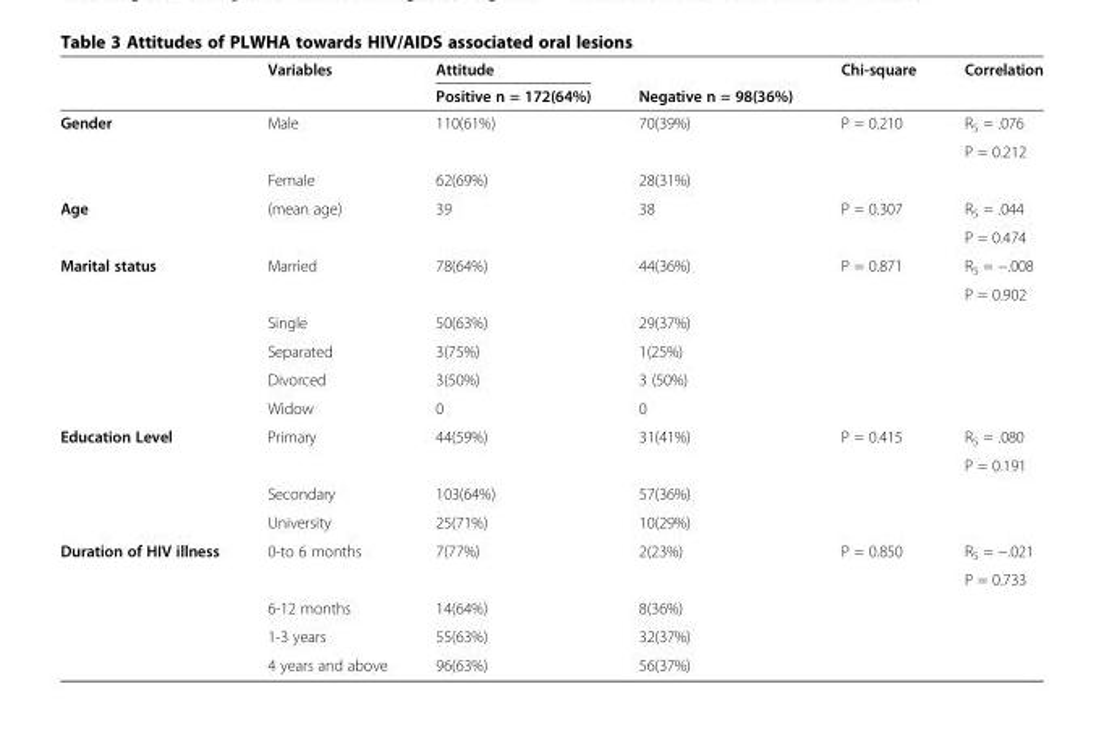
<table><thead><tr><td rowspan="2"></td><td rowspan="2">Variables</td><td rowspan="2">Attitude Positive n = 172(64%)</td><td rowspan="2">Negative n = 98(36%)</td><td rowspan="2">Chi-square</td><td rowspan="2">Correlation</td></tr><tr></tr></thead><tbody><tr><td rowspan="3">Gender</td><td rowspan="2">Male</td><td rowspan="2">110(61%)</td><td rowspan="2">70(39%)</td><td rowspan="2">P = 0.210</td><td>R<sub>S</sub> = .076</td></tr><tr><td>P = 0.212</td></tr><tr><td>Female</td><td>62(69%)</td><td>28(31%)</td><td></td><td></td></tr><tr><td rowspan="2">Age</td><td rowspan="2">(mean age)</td><td rowspan="2">39</td><td rowspan="2">38</td><td rowspan="2">P = 0.307</td><td>R<sub>S</sub> = .044</td></tr><tr><td>P = 0.474</td></tr><tr><td rowspan="6">Marital status</td><td rowspan="2">Married</td><td rowspan="2">78(64%)</td><td rowspan="2">44(36%)</td><td rowspan="2">P = 0.871</td><td>R<sub>S</sub> = −.008</td></tr><tr><td>P = 0.902</td></tr><tr><td>Single</td><td>50(63%)</td><td>29(37%)</td><td></td><td></td></tr><tr><td>Separated</td><td>3(75%)</td><td>1(25%)</td><td></td><td></td></tr><tr><td>Divorced</td><td>3(50%)</td><td>3 (50%)</td><td></td><td></td></tr><tr><td>Widow</td><td>0</td><td>0</td><td></td><td></td></tr><tr><td rowspan="4">Education Level</td><td rowspan="2">Primary</td><td rowspan="2">44(59%)</td><td rowspan="2">31(41%)</td><td rowspan="2">P = 0.415</td><td>R<sub>S</sub> = .080</td></tr><tr><td>P = 0.191</td></tr><tr><td>Secondary</td><td>103(64%)</td><td>57(36%)</td><td></td><td></td></tr><tr><td>University</td><td>25(71%)</td><td>10(29%)</td><td></td><td></td></tr><tr><td rowspan="5">Duration of HIV illness</td><td rowspan="2">0-to 6 months</td><td rowspan="2">7(77%)</td><td rowspan="2">2(23%)</td><td rowspan="2">P = 0.850</td><td>R<sub>S</sub> = −.021</td></tr><tr><td>P = 0.733</td></tr><tr><td>6-12 months</td><td>14(64%)</td><td>8(36%)</td><td></td><td></td></tr><tr><td>1-3 years</td><td>55(63%)</td><td>32(37%)</td><td></td><td></td></tr><tr><td>4 years and above</td><td>96(63%)</td><td>56(37%)</td><td></td><td></td></tr></tbody></table>